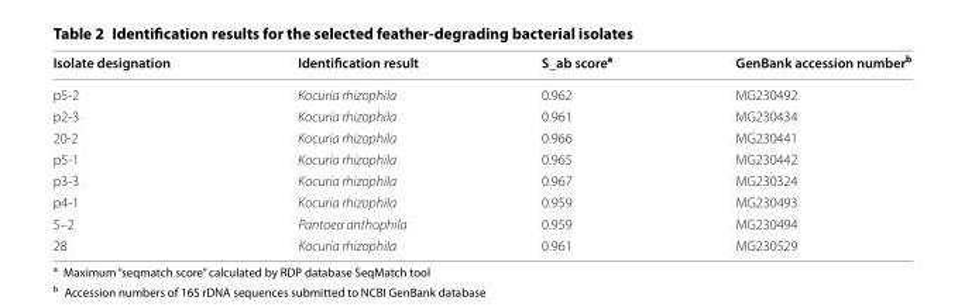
<table><thead><tr><td>Isolate designation</td><td>Identification result</td><td>S_ab score<sup>a</sup></td><td>GenBank accession number<sup>b</sup></td></tr></thead><tbody><tr><td>p5-2</td><td>Kocuria rhizophila</td><td>0.962</td><td>MG230492</td></tr><tr><td>p2-3</td><td>Kocuria rhizophila</td><td>0.961</td><td>MG230434</td></tr><tr><td>20-2</td><td>Kocuria rhizophila</td><td>0.966</td><td>MG230441</td></tr><tr><td>p5-1</td><td>Kocuria rhizophila</td><td>0.965</td><td>MG230442</td></tr><tr><td>p3-3</td><td>Kocuria rhizophila</td><td>0.967</td><td>MG230324</td></tr><tr><td>p4-1</td><td>Kocuria rhizophila</td><td>0.959</td><td>MG230493</td></tr><tr><td>5–2</td><td>Pantoea anthophila</td><td>0.959</td><td>MG230494</td></tr><tr><td>28</td><td>Kocuria rhizophila</td><td>0.961</td><td>MG230529</td></tr></tbody></table>